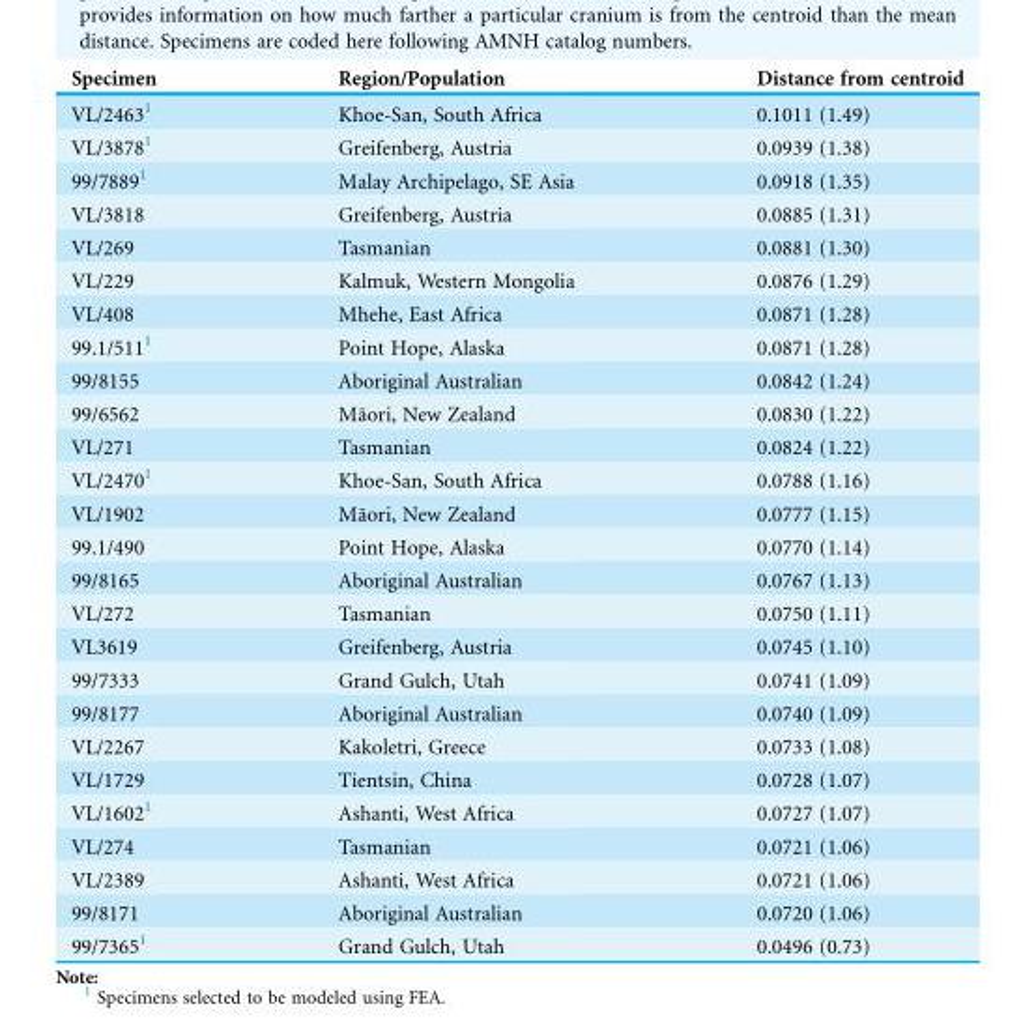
<table><thead><tr><td>Specimen</td><td>Region/Population</td><td>Distance from centroid</td></tr></thead><tbody><tr><td>VL/2463<sup>1</sup></td><td>Khoe-San, South Africa</td><td>0.1011 (1.49)</td></tr><tr><td>VL/3878<sup>1</sup></td><td>Greifenberg, Austria</td><td>0.0939 (1.38)</td></tr><tr><td>99/7889<sup>1</sup></td><td>Malay Archipelago, SE Asia</td><td>0.0918 (1.35)</td></tr><tr><td>VL/3818</td><td>Greifenberg, Austria</td><td>0.0885 (1.31)</td></tr><tr><td>VL/269</td><td>Tasmanian</td><td>0.0881 (1.30)</td></tr><tr><td>VL/229</td><td>Kalmuk, Western Mongolia</td><td>0.0876 (1.29)</td></tr><tr><td>VL/408</td><td>Mhehe, East Africa</td><td>0.0871 (1.28)</td></tr><tr><td>99.1/511<sup>1</sup></td><td>Point Hope, Alaska</td><td>0.0871 (1.28)</td></tr><tr><td>99/8155</td><td>Aboriginal Australian</td><td>0.0842 (1.24)</td></tr><tr><td>99/6562</td><td>Ma¯ori, New Zealand</td><td>0.0830 (1.22)</td></tr><tr><td>VL/271</td><td>Tasmanian</td><td>0.0824 (1.22)</td></tr><tr><td>VL/2470<sup>1</sup></td><td>Khoe-San, South Africa</td><td>0.0788 (1.16)</td></tr><tr><td>VL/1902</td><td>Ma¯ori, New Zealand</td><td>0.0777 (1.15)</td></tr><tr><td>99.1/490</td><td>Point Hope, Alaska</td><td>0.0770 (1.14)</td></tr><tr><td>99/8165</td><td>Aboriginal Australian</td><td>0.0767 (1.13)</td></tr><tr><td>VL/272</td><td>Tasmanian</td><td>0.0750 (1.11)</td></tr><tr><td>VL3619</td><td>Greifenberg, Austria</td><td>0.0745 (1.10)</td></tr><tr><td>99/7333</td><td>Grand Gulch, Utah</td><td>0.0741 (1.09)</td></tr><tr><td>99/8177</td><td>Aboriginal Australian</td><td>0.0740 (1.09)</td></tr><tr><td>VL/2267</td><td>Kakoletri, Greece</td><td>0.0733 (1.08)</td></tr><tr><td>VL/1729</td><td>Tientsin, China</td><td>0.0728 (1.07)</td></tr><tr><td>VL/1602<sup>1</sup></td><td>Ashanti, West Africa</td><td>0.0727 (1.07)</td></tr><tr><td>VL/274</td><td>Tasmanian</td><td>0.0721 (1.06)</td></tr><tr><td>VL/2389</td><td>Ashanti, West Africa</td><td>0.0721 (1.06)</td></tr><tr><td>99/8171</td><td>Aboriginal Australian</td><td>0.0720 (1.06)</td></tr><tr><td>99/7365<sup>1</sup></td><td>Grand Gulch, Utah</td><td>0.0496 (0.73)</td></tr></tbody></table>